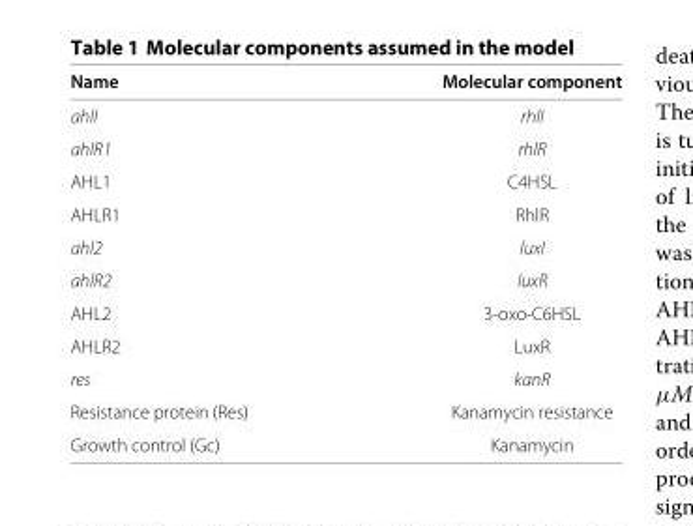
<table><thead><tr><td>Name</td><td>Molecular component</td></tr></thead><tbody><tr><td>ahlI</td><td>rhlI</td></tr><tr><td>ahlR1</td><td>rhlR</td></tr><tr><td>AHL1</td><td>C4HSL</td></tr><tr><td>AHLR1</td><td>RhlR</td></tr><tr><td>ahl2</td><td>luxI</td></tr><tr><td>ahlR2</td><td>luxR</td></tr><tr><td>AHL2</td><td>3-oxo-C6HSL</td></tr><tr><td>AHLR2</td><td>LuxR</td></tr><tr><td>res</td><td>kanR</td></tr><tr><td>Resistance protein (Res)</td><td>Kanamycin resistance</td></tr><tr><td>Growth control (Gc)</td><td>Kanamycin</td></tr></tbody></table>